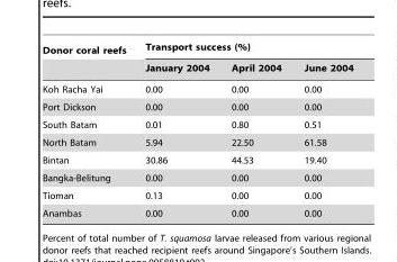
<table><thead><tr><td rowspan="2">Donor coral reefs</td><td colspan="3">Transport success (%)</td></tr><tr><td>January 2004</td><td>April 2004</td><td>June 2004</td></tr></thead><tbody><tr><td>Koh Racha Yai</td><td>0.00</td><td>0.00</td><td>0.00</td></tr><tr><td>Port Dickson</td><td>0.00</td><td>0.00</td><td>0.00</td></tr><tr><td>South Batam</td><td>0.01</td><td>0.80</td><td>0.51</td></tr><tr><td>North Batam</td><td>5.94</td><td>22.50</td><td>61.58</td></tr><tr><td>Bintan</td><td>30.86</td><td>44.53</td><td>19.40</td></tr><tr><td>Bangka-Belitung</td><td>0.00</td><td>0.00</td><td>0.00</td></tr><tr><td>Tioman</td><td>0.13</td><td>0.00</td><td>0.00</td></tr><tr><td>Anambas</td><td>0.00</td><td>0.00</td><td>0.00</td></tr></tbody></table>